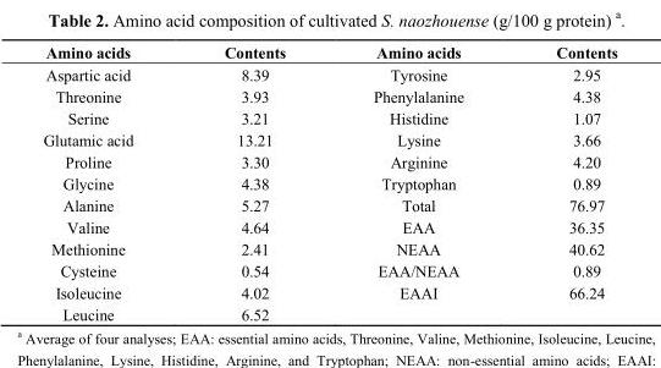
<table><thead><tr><td>Amino acids</td><td>Contents</td><td>Amino acids</td><td>Contents</td></tr></thead><tbody><tr><td>Aspartic acid</td><td>8.39</td><td>Tyrosine</td><td>2.95</td></tr><tr><td>Threonine</td><td>3.93</td><td>Phenylalanine</td><td>4.38</td></tr><tr><td>Serine</td><td>3.21</td><td>Histidine</td><td>1.07</td></tr><tr><td>Glutamic acid</td><td>13.21</td><td>Lysine</td><td>3.66</td></tr><tr><td>Proline</td><td>3.30</td><td>Arginine</td><td>4.20</td></tr><tr><td>Glycine</td><td>4.38</td><td>Tryptophan</td><td>0.89</td></tr><tr><td>Alanine</td><td>5.27</td><td>Total</td><td>76.97</td></tr><tr><td>Valine</td><td>4.64</td><td>EAA</td><td>36.35</td></tr><tr><td>Methionine</td><td>2.41</td><td>NEAA</td><td>40.62</td></tr><tr><td>Cysteine</td><td>0.54</td><td>EAA/NEAA</td><td>0.89</td></tr><tr><td>Isoleucine</td><td>4.02</td><td>EAAI</td><td>66.24</td></tr><tr><td>Leucine</td><td>6.52</td><td></td><td></td></tr></tbody></table>